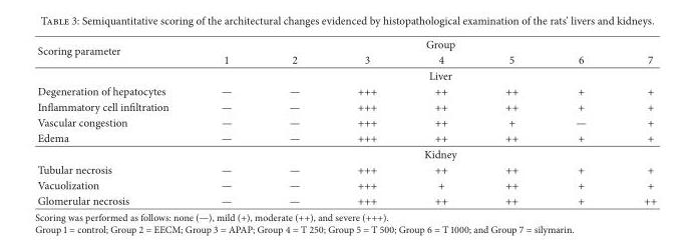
<table><thead><tr><td rowspan="2">Scoring parameter</td><td colspan="7">Group</td></tr><tr><td>1</td><td>2</td><td>3</td><td>4</td><td>5</td><td>6</td><td>7</td></tr></thead><tbody><tr><td></td><td colspan="7">Liver</td></tr><tr><td>Degeneration of hepatocytes</td><td>—</td><td>—</td><td>+++</td><td>++</td><td>++</td><td>+</td><td>+</td></tr><tr><td>Inflammatory cell infiltration</td><td>—</td><td>—</td><td>+++</td><td>++</td><td>++</td><td>+</td><td>+</td></tr><tr><td>Vascular congestion</td><td>—</td><td>—</td><td>+++</td><td>++</td><td>+</td><td>—</td><td>+</td></tr><tr><td rowspan="2">Edema</td><td>—</td><td>—</td><td>+++</td><td>++</td><td>++</td><td>+</td><td>+</td></tr><tr><td colspan="7">Kidney</td></tr><tr><td>Tubular necrosis</td><td>—</td><td>—</td><td>+++</td><td>++</td><td>++</td><td>+</td><td>+</td></tr><tr><td>Vacuolization</td><td>—</td><td>—</td><td>+++</td><td>+</td><td>++</td><td>+</td><td>+</td></tr><tr><td>Glomerular necrosis</td><td>—</td><td>—</td><td>+++</td><td>++</td><td>++</td><td>+</td><td>++</td></tr></tbody></table>